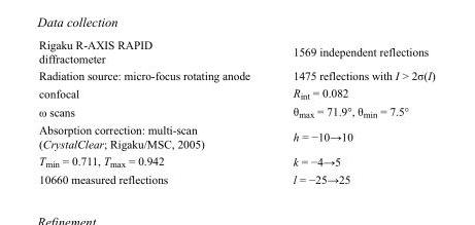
<table><tbody><tr><td>Rigaku R-AXIS RAPID diffractometer</td><td>1569 independent reflections</td></tr><tr><td>Radiation source: micro-focus rotating anode</td><td>1475 reflections with I &gt; 2σ(I)</td></tr><tr><td>confocal</td><td>R<sub>int</sub> = 0.082</td></tr><tr><td>ω scans</td><td>θ<sub>max</sub> = 71.9°, θ<sub>min</sub> = 7.5°</td></tr><tr><td>Absorption correction: multi-scan (CrystalClear; Rigaku/MSC, 2005)</td><td>h = −10→10</td></tr><tr><td>T<sub>min</sub> = 0.711, T<sub>max</sub> = 0.942</td><td>k = −4→5</td></tr><tr><td>10660 measured reflections</td><td>l = −25→25</td></tr></tbody></table>